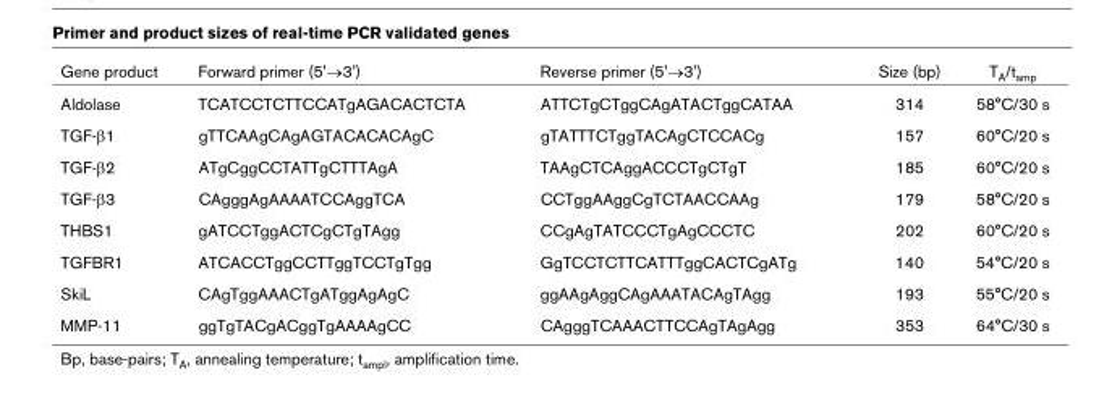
<table><thead><tr><td>Gene product</td><td>Forward primer (5&#x27;→3&#x27;)</td><td>Reverse primer (5&#x27;→3&#x27;)</td><td>Size (bp)</td><td>T<sub>A</sub>/t<sub>amp</sub></td></tr></thead><tbody><tr><td>Aldolase</td><td>TCATCCTCTTCCATgAGACACTCTA</td><td>ATTCTgCTggCAgATACTggCATAA</td><td>314</td><td>58°C/30 s</td></tr><tr><td>TGF-β1</td><td>gTTCAAgCAgAGTACACACAgC</td><td>gTATTTCTggTACAgCTCCACg</td><td>157</td><td>60°C/20 s</td></tr><tr><td>TGF-β2</td><td>ATgCggCCTATTgCTTTAgA</td><td>TAAgCTCAggACCCTgCTgT</td><td>185</td><td>60°C/20 s</td></tr><tr><td>TGF-β3</td><td>CAgggAgAAAATCCAggTCA</td><td>CCTggAAggCgTCTAACCAAg</td><td>179</td><td>58°C/20 s</td></tr><tr><td>THBS1</td><td>gATCCTggACTCgCTgTAgg</td><td>CCgAgTATCCCTgAgCCCTC</td><td>202</td><td>60°C/20 s</td></tr><tr><td>TGFBR1</td><td>ATCACCTggCCTTggTCCTgTgg</td><td>GgTCCTCTTCATTTggCACTCgATg</td><td>140</td><td>54°C/20 s</td></tr><tr><td>SkiL</td><td>CAgTggAAACTgATggAgAgC</td><td>ggAAgAggCAgAAATACAgTAgg</td><td>193</td><td>55°C/20 s</td></tr><tr><td>MMP-11</td><td>ggTgTACgACggTgAAAAgCC</td><td>CAgggTCAAACTTCCAgTAgAgg</td><td>353</td><td>64°C/30 s</td></tr></tbody></table>